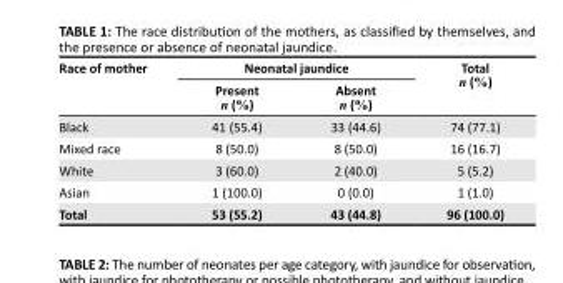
<table><thead><tr><td rowspan="2">Race of mother</td><td colspan="2">Neonatal jaundice</td><td rowspan="2">Total n (%)</td></tr><tr><td>Present n (%)</td><td>Absent n (%)</td></tr></thead><tbody><tr><td>Black</td><td>41 (55.4)</td><td>33 (44.6)</td><td>74 (77.1)</td></tr><tr><td>Mixed race</td><td>8 (50.0)</td><td>8 (50.0)</td><td>16 (16.7)</td></tr><tr><td>White</td><td>3 (60.0)</td><td>2 (40.0)</td><td>5 (5.2)</td></tr><tr><td>Asian</td><td>1 (100.0)</td><td>0 (0.0)</td><td>1 (1.0)</td></tr><tr><td>Total</td><td>53 (55.2)</td><td>43 (44.8)</td><td>96 (100.0)</td></tr></tbody></table>